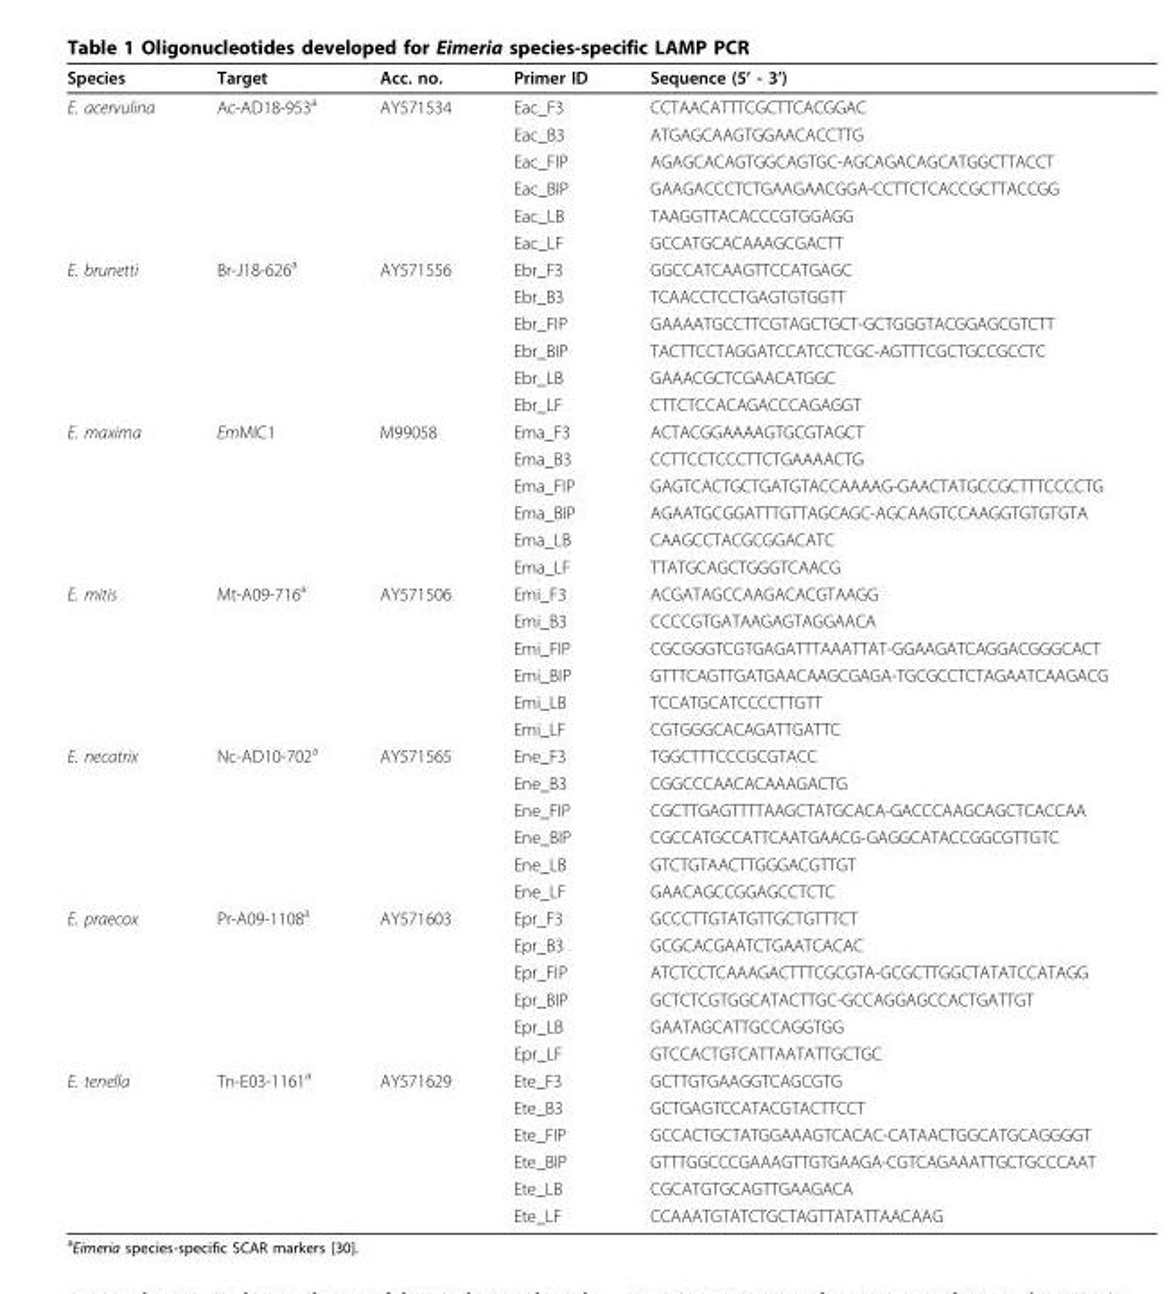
<table><thead><tr><td>Species</td><td>Target</td><td>Acc. no.</td><td>Primer ID</td><td>Sequence (5’ - 3’)</td></tr></thead><tbody><tr><td rowspan="6">E. acervulina</td><td>Ac-AD18-953<sup>a</sup></td><td>AY571534</td><td>Eac_F3</td><td>CCTAACATTTCGCTTCACGGAC</td></tr><tr><td></td><td></td><td>Eac_B3</td><td>ATGAGCAAGTGGAACACCTTG</td></tr><tr><td></td><td></td><td>Eac_FIP</td><td>AGAGCACAGTGGCAGTGC-AGCAGACAGCATGGCTTACCT</td></tr><tr><td></td><td></td><td>Eac_BIP</td><td>GAAGACCCTCTGAAGAACGGA-CCTTCTCACCGCTTACCGG</td></tr><tr><td></td><td></td><td>Eac_LB</td><td>TAAGGTTACACCCGTGGAGG</td></tr><tr><td></td><td></td><td>Eac_LF</td><td>GCCATGCACAAAGCGACTT</td></tr><tr><td rowspan="6">E. brunetti</td><td>Br-J18-626<sup>a</sup></td><td>AY571556</td><td>Ebr_F3</td><td>GGCCATCAAGTTCCATGAGC</td></tr><tr><td></td><td></td><td>Ebr_B3</td><td>TCAACCTCCTGAGTGTGGTT</td></tr><tr><td></td><td></td><td>Ebr_FIP</td><td>GAAAATGCCTTCGTAGCTGCT-GCTGGGTACGGAGCGTCTT</td></tr><tr><td></td><td></td><td>Ebr_BIP</td><td>TACTTCCTAGGATCCATCCTCGC-AGTTTCGCTGCCGCCTC</td></tr><tr><td></td><td></td><td>Ebr_LB</td><td>GAAACGCTCGAACATGGC</td></tr><tr><td></td><td></td><td>Ebr_LF</td><td>CTTCTCCACAGACCCAGAGGT</td></tr><tr><td rowspan="6">E. maxima</td><td>EmMIC1</td><td>M99058</td><td>Ema_F3</td><td>ACTACGGAAAAGTGCGTAGCT</td></tr><tr><td></td><td></td><td>Ema_B3</td><td>CCTTCCTCCCTTCTGAAAACTG</td></tr><tr><td></td><td></td><td>Ema_FIP</td><td>GAGTCACTGCTGATGTACCAAAAG-GAACTATGCCGCTTTCCCCTG</td></tr><tr><td></td><td></td><td>Ema_BIP</td><td>AGAATGCGGATTTGTTAGCAGC-AGCAAGTCCAAGGTGTGTGTA</td></tr><tr><td></td><td></td><td>Ema_LB</td><td>CAAGCCTACGCGGACATC</td></tr><tr><td></td><td></td><td>Ema_LF</td><td>TTATGCAGCTGGGTCAACG</td></tr><tr><td rowspan="6">E. mitis</td><td>Mt-A09-716<sup>a</sup></td><td>AY571506</td><td>Emi_F3</td><td>ACGATAGCCAAGACACGTAAGG</td></tr><tr><td></td><td></td><td>Emi_B3</td><td>CCCCGTGATAAGAGTAGGAACA</td></tr><tr><td></td><td></td><td>Emi_FIP</td><td>CGCGGGTCGTGAGATTTAAATTAT-GGAAGATCAGGACGGGCACT</td></tr><tr><td></td><td></td><td>Emi_BIP</td><td>GTTTCAGTTGATGAACAAGCGAGA-TGCGCCTCTAGAATCAAGACG</td></tr><tr><td></td><td></td><td>Emi_LB</td><td>TCCATGCATCCCCTTGTT</td></tr><tr><td></td><td></td><td>Emi_LF</td><td>CGTGGGCACAGATTGATTC</td></tr><tr><td rowspan="6">E. necatrix</td><td>Nc-AD10-702<sup>a</sup></td><td>AY571565</td><td>Ene_F3</td><td>TGGCTTTCCCGCGTACC</td></tr><tr><td></td><td></td><td>Ene_B3</td><td>CGGCCCAACACAAAGACTG</td></tr><tr><td></td><td></td><td>Ene_FIP</td><td>CGCTTGAGTTTTAAGCTATGCACA-GACCCAAGCAGCTCACCAA</td></tr><tr><td></td><td></td><td>Ene_BIP</td><td>CGCCATGCCATTCAATGAACG-GAGGCATACCGGCGTTGTC</td></tr><tr><td></td><td></td><td>Ene_LB</td><td>GTCTGTAACTTGGGACGTTGT</td></tr><tr><td></td><td></td><td>Ene_LF</td><td>GAACAGCCGGAGCCTCTC</td></tr><tr><td rowspan="6">E. praecox</td><td>Pr-A09-1108<sup>a</sup></td><td>AY571603</td><td>Epr_F3</td><td>GCCCTTGTATGTTGCTGTTTCT</td></tr><tr><td></td><td></td><td>Epr_B3</td><td>GCGCACGAATCTGAATCACAC</td></tr><tr><td></td><td></td><td>Epr_FIP</td><td>ATCTCCTCAAAGACTTTCGCGTA-GCGCTTGGCTATATCCATAGG</td></tr><tr><td></td><td></td><td>Epr_BIP</td><td>GCTCTCGTGGCATACTTGC-GCCAGGAGCCACTGATTGT</td></tr><tr><td></td><td></td><td>Epr_LB</td><td>GAATAGCATTGCCAGGTGG</td></tr><tr><td></td><td></td><td>Epr_LF</td><td>GTCCACTGTCATTAATATTGCTGC</td></tr><tr><td rowspan="6">E. tenella</td><td>Tn-E03-1161<sup>a</sup></td><td>AY571629</td><td>Ete_F3</td><td>GCTTGTGAAGGTCAGCGTG</td></tr><tr><td></td><td></td><td>Ete_B3</td><td>GCTGAGTCCATACGTACTTCCT</td></tr><tr><td></td><td></td><td>Ete_FIP</td><td>GCCACTGCTATGGAAAGTCACAC-CATAACTGGCATGCAGGGGT</td></tr><tr><td></td><td></td><td>Ete_BIP</td><td>GTTTGGCCCGAAAGTTGTGAAGA-CGTCAGAAATTGCTGCCCAAT</td></tr><tr><td></td><td></td><td>Ete_LB</td><td>CGCATGTGCAGTTGAAGACA</td></tr><tr><td></td><td></td><td>Ete_LF</td><td>CCAAATGTATCTGCTAGTTATATTAACAAG</td></tr></tbody></table>